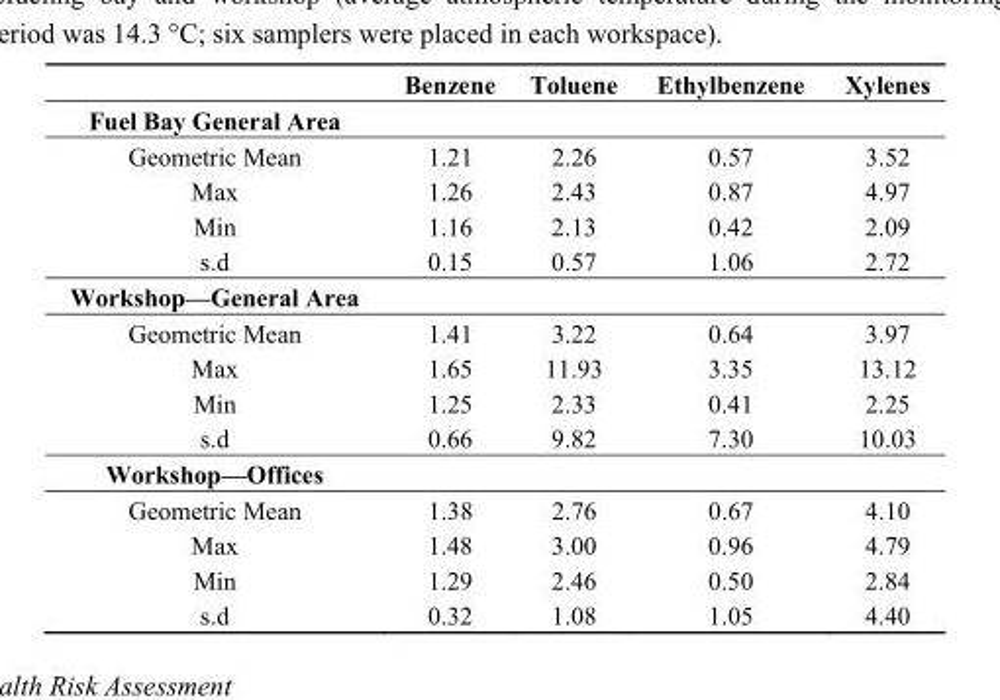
<table><thead><tr><td></td><td>Benzene</td><td>Toluene</td><td>Ethylbenzene</td><td>Xylenes</td></tr></thead><tbody><tr><td colspan="5">Fuel Bay General Area</td></tr><tr><td>Geometric Mean</td><td>1.21</td><td>2.26</td><td>0.57</td><td>3.52</td></tr><tr><td>Max</td><td>1.26</td><td>2.43</td><td>0.87</td><td>4.97</td></tr><tr><td>Min</td><td>1.16</td><td>2.13</td><td>0.42</td><td>2.09</td></tr><tr><td>s.d</td><td>0.15</td><td>0.57</td><td>1.06</td><td>2.72</td></tr><tr><td colspan="5">Workshop—General Area</td></tr><tr><td>Geometric Mean</td><td>1.41</td><td>3.22</td><td>0.64</td><td>3.97</td></tr><tr><td>Max</td><td>1.65</td><td>11.93</td><td>3.35</td><td>13.12</td></tr><tr><td>Min</td><td>1.25</td><td>2.33</td><td>0.41</td><td>2.25</td></tr><tr><td>s.d</td><td>0.66</td><td>9.82</td><td>7.30</td><td>10.03</td></tr><tr><td colspan="5">Workshop—Offices</td></tr><tr><td>Geometric Mean</td><td>1.38</td><td>2.76</td><td>0.67</td><td>4.10</td></tr><tr><td>Max</td><td>1.48</td><td>3.00</td><td>0.96</td><td>4.79</td></tr><tr><td>Min</td><td>1.29</td><td>2.46</td><td>0.50</td><td>2.84</td></tr><tr><td>s.d</td><td>0.32</td><td>1.08</td><td>1.05</td><td>4.40</td></tr></tbody></table>